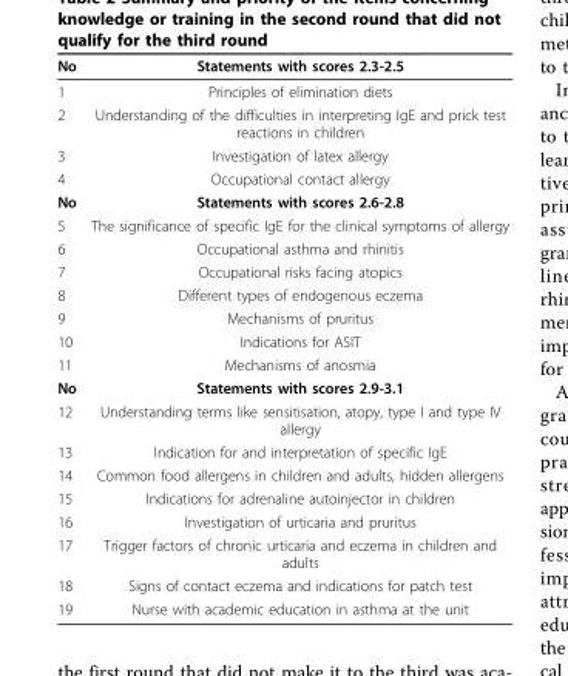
<table><thead><tr><td>No</td><td>Statements with scores 2.3-2.5</td></tr></thead><tbody><tr><td>1</td><td>Principles of elimination diets</td></tr><tr><td>2</td><td>Understanding of the difficulties in interpreting IgE and prick test reactions in children</td></tr><tr><td>3</td><td>Investigation of latex allergy</td></tr><tr><td>4</td><td>Occupational contact allergy</td></tr><tr><td>No</td><td>Statements with scores 2.6-2.8</td></tr><tr><td>5</td><td>The significance of specific IgE for the clinical symptoms of allergy</td></tr><tr><td>6</td><td>Occupational asthma and rhinitis</td></tr><tr><td>7</td><td>Occupational risks facing atopics</td></tr><tr><td>8</td><td>Different types of endogenous eczema</td></tr><tr><td>9</td><td>Mechanisms of pruritus</td></tr><tr><td>10</td><td>Indications for ASIT</td></tr><tr><td>11</td><td>Mechanisms of anosmia</td></tr><tr><td>No</td><td>Statements with scores 2.9-3.1</td></tr><tr><td>12</td><td>Understanding terms like sensitisation, atopy, type I and type IV allergy</td></tr><tr><td>13</td><td>Indication for and interpretation of specific IgE</td></tr><tr><td>14</td><td>Common food allergens in children and adults, hidden allergens</td></tr><tr><td>15</td><td>Indications for adrenaline autoinjector in children</td></tr><tr><td>16</td><td>Investigation of urticaria and pruritus</td></tr><tr><td>17</td><td>Trigger factors of chronic urticaria and eczema in children and adults</td></tr><tr><td>18</td><td>Signs of contact eczema and indications for patch test</td></tr><tr><td>19</td><td>Nurse with academic education in asthma at the unit</td></tr></tbody></table>